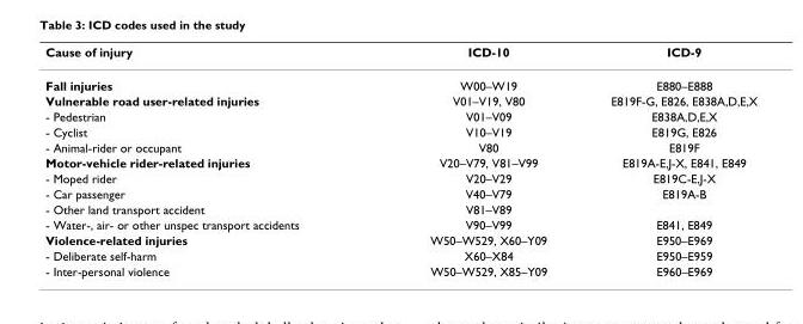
<table><thead><tr><td>Cause of injury</td><td>ICD-10</td><td>ICD-9</td></tr></thead><tbody><tr><td>Fall injuries</td><td>W00–W19</td><td>E880–E888</td></tr><tr><td>Vulnerable road user-related injuries</td><td>V01–V19, V80</td><td>E819F-G, E826, E838A,D,E,X</td></tr><tr><td>- Pedestrian</td><td>V01–V09</td><td>E838A,D,E,X</td></tr><tr><td>- Cyclist</td><td>V10–V19</td><td>E819G, E826</td></tr><tr><td>- Animal-rider or occupant</td><td>V80</td><td>E819F</td></tr><tr><td>Motor-vehicle rider-related injuries</td><td>V20–V79, V81–V99</td><td>E819A-E,J-X, E841, E849</td></tr><tr><td>- Moped rider</td><td>V20–V29</td><td>E819C-E,J-X</td></tr><tr><td>- Car passenger</td><td>V40–V79</td><td>E819A-B</td></tr><tr><td>- Other land transport accident</td><td>V81–V89</td><td></td></tr><tr><td>- Water-, air- or other unspec transport accidents</td><td>V90–V99</td><td>E841, E849</td></tr><tr><td>Violence-related injuries</td><td>W50–W529, X60–Y09</td><td>E950–E969</td></tr><tr><td>- Deliberate self-harm</td><td>X60–X84</td><td>E950–E959</td></tr><tr><td>- Inter-personal violence</td><td>W50–W529, X85–Y09</td><td>E960–E969</td></tr></tbody></table>